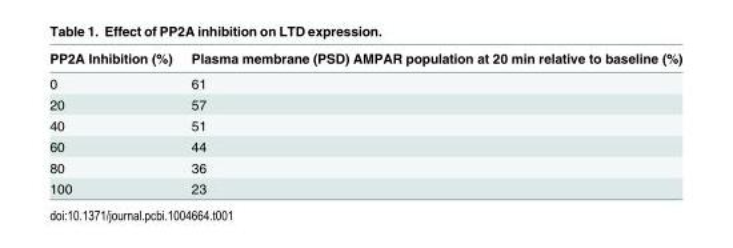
<table><thead><tr><td>PP2A Inhibition (%)</td><td>Plasma membrane (PSD) AMPAR population at 20 min relative to baseline (%)</td></tr></thead><tbody><tr><td>0</td><td>61</td></tr><tr><td>20</td><td>57</td></tr><tr><td>40</td><td>51</td></tr><tr><td>60</td><td>44</td></tr><tr><td>80</td><td>36</td></tr><tr><td>100</td><td>23</td></tr></tbody></table>